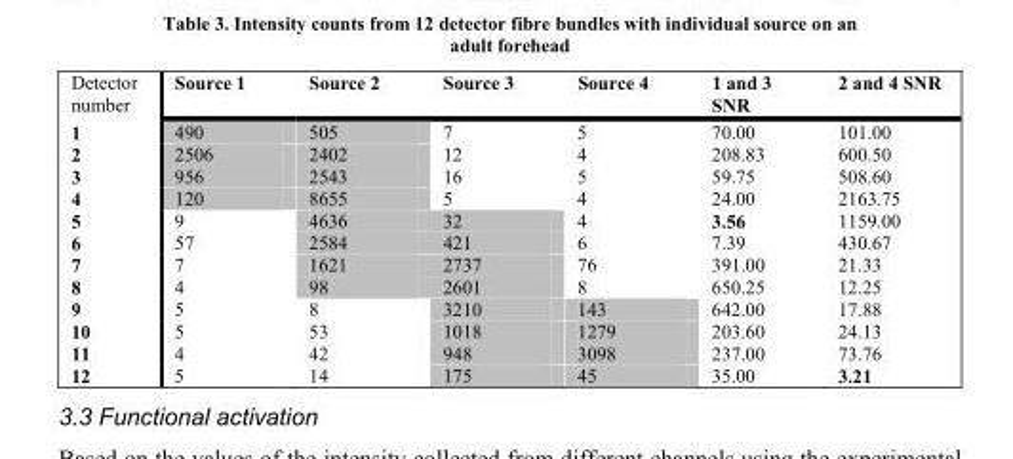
<table><thead><tr><td>Detector number</td><td>Source 1</td><td>Source 2</td><td>Source 3</td><td>Source 4</td><td>1 and 3 SNR</td><td>2 and 4 SNR</td></tr></thead><tbody><tr><td>1</td><td>490</td><td>505</td><td>7</td><td>5</td><td>70.00</td><td>101.00</td></tr><tr><td>2</td><td>2506</td><td>2402</td><td>12</td><td>4</td><td>208.83</td><td>600.50</td></tr><tr><td>3</td><td>956</td><td>2543</td><td>16</td><td>5</td><td>59.75</td><td>508.60</td></tr><tr><td>4</td><td>120</td><td>8655</td><td>5</td><td>4</td><td>24.00</td><td>2163.75</td></tr><tr><td>5</td><td>9</td><td>4636</td><td>32</td><td>4</td><td>3.56</td><td>1159.00</td></tr><tr><td>6</td><td>57</td><td>2584</td><td>421</td><td>6</td><td>7.39</td><td>430.67</td></tr><tr><td>7</td><td>7</td><td>1621</td><td>2737</td><td>76</td><td>391.00</td><td>21.33</td></tr><tr><td>8</td><td>4</td><td>98</td><td>2601</td><td>8</td><td>650.25</td><td>12.25</td></tr><tr><td>9</td><td>5</td><td>8</td><td>3210</td><td>143</td><td>642.00</td><td>17.88</td></tr><tr><td>10</td><td>5</td><td>53</td><td>1018</td><td>1279</td><td>203.60</td><td>24.13</td></tr><tr><td>11</td><td>4</td><td>42</td><td>948</td><td>3098</td><td>237.00</td><td>73.76</td></tr><tr><td>12</td><td>5</td><td>14</td><td>175</td><td>45</td><td>35.00</td><td>3.21</td></tr></tbody></table>